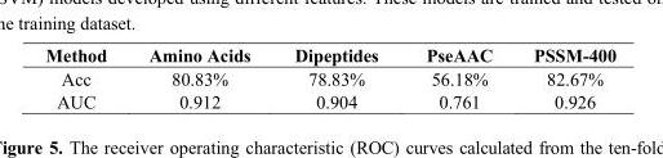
<table><thead><tr><td>Method</td><td>Amino Acids</td><td>Dipeptides</td><td>PseAAC</td><td>PSSM-400</td></tr></thead><tbody><tr><td>Acc</td><td>80.83%</td><td>78.83%</td><td>56.18%</td><td>82.67%</td></tr><tr><td>AUC</td><td>0.912</td><td>0.904</td><td>0.761</td><td>0.926</td></tr></tbody></table>